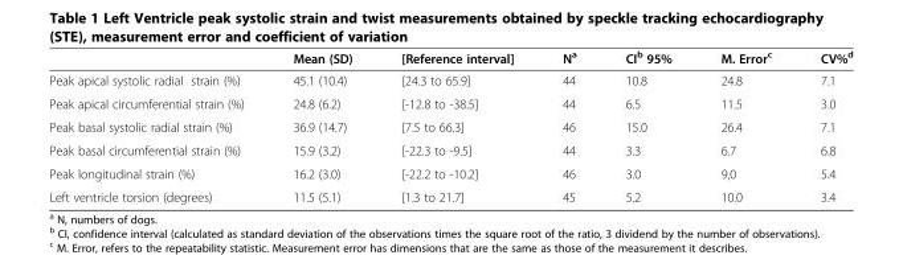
<table><thead><tr><td></td><td>Mean (SD)</td><td>[Reference interval]</td><td>N<sup>a</sup></td><td>CI<sup>b</sup> 95%</td><td>M. Error<sup>c</sup></td><td>CV%<sup>d</sup></td></tr></thead><tbody><tr><td>Peak apical systolic radial strain (%)</td><td>45.1 (10.4)</td><td>[24.3 to 65.9]</td><td>44</td><td>10.8</td><td>24.8</td><td>7.1</td></tr><tr><td>Peak apical circumferential strain (%)</td><td>24.8 (6.2)</td><td>[-12.8 to -38.5]</td><td>44</td><td>6.5</td><td>11.5</td><td>3.0</td></tr><tr><td>Peak basal systolic radial strain (%)</td><td>36.9 (14.7)</td><td>[7.5 to 66.3]</td><td>46</td><td>15.0</td><td>26.4</td><td>7.1</td></tr><tr><td>Peak basal circumferential strain (%)</td><td>15.9 (3.2)</td><td>[-22.3 to -9.5]</td><td>44</td><td>3.3</td><td>6.7</td><td>6.8</td></tr><tr><td>Peak longitudinal strain (%)</td><td>16.2 (3.0)</td><td>[-22.2 to -10.2]</td><td>46</td><td>3.0</td><td>9,0</td><td>5.4</td></tr><tr><td>Left ventricle torsion (degrees)</td><td>11.5 (5.1)</td><td>[1.3 to 21.7]</td><td>45</td><td>5.2</td><td>10.0</td><td>3.4</td></tr></tbody></table>